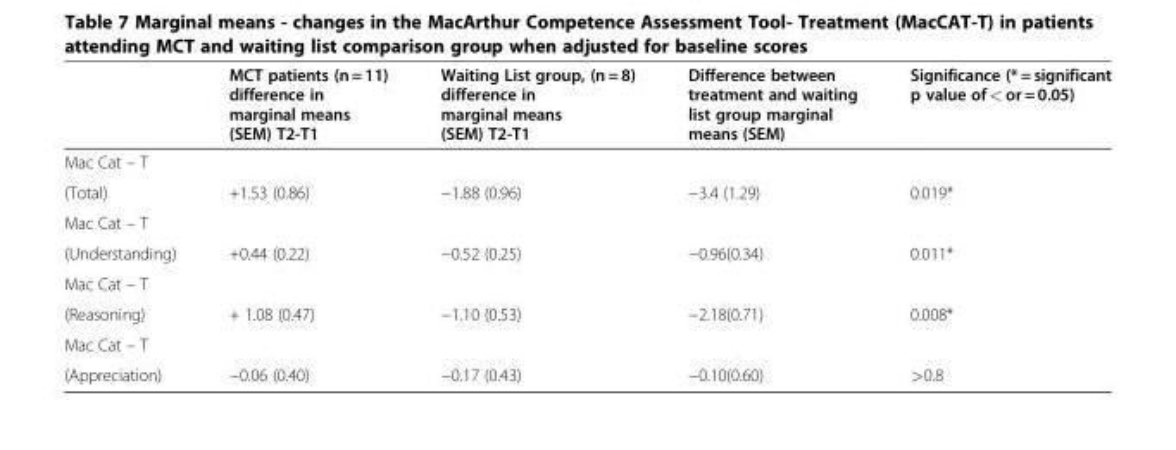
<table><thead><tr><td></td><td>MCT patients (n = 11) difference in marginal means (SEM) T2-T1</td><td>Waiting List group, (n = 8) difference in marginal means (SEM) T2-T1</td><td>Difference between treatment and waiting list group marginal means (SEM)</td><td>Significance (* = significant p value of &lt; or = 0.05)</td></tr></thead><tbody><tr><td colspan="5">Mac Cat – T</td></tr><tr><td>(Total)</td><td>+1.53 (0.86)</td><td>−1.88 (0.96)</td><td>−3.4 (1.29)</td><td>0.019*</td></tr><tr><td colspan="5">Mac Cat – T</td></tr><tr><td>(Understanding)</td><td>+0.44 (0.22)</td><td>−0.52 (0.25)</td><td>−0.96(0.34)</td><td>0.011*</td></tr><tr><td colspan="5">Mac Cat – T</td></tr><tr><td>(Reasoning)</td><td>+ 1.08 (0.47)</td><td>−1.10 (0.53)</td><td>−2.18(0.71)</td><td>0.008*</td></tr><tr><td colspan="5">Mac Cat – T</td></tr><tr><td>(Appreciation)</td><td>−0.06 (0.40)</td><td>−0.17 (0.43)</td><td>−0.10(0.60)</td><td>&gt;0.8</td></tr></tbody></table>